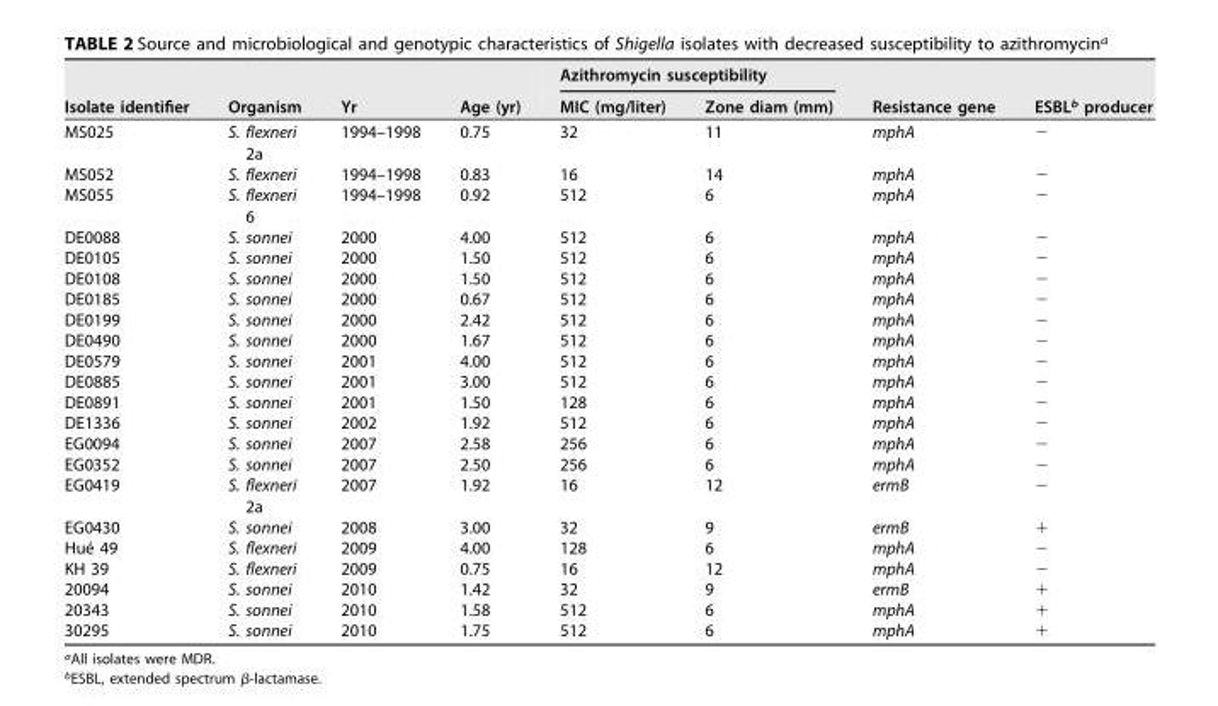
<table><thead><tr><td rowspan="2">Isolate identifier</td><td rowspan="2">Organism</td><td rowspan="2">Yr</td><td rowspan="2">Age (yr)</td><td colspan="2">Azithromycin susceptibility</td><td rowspan="2">Resistance gene</td><td rowspan="2">ESBL<sup>b</sup> producer</td></tr><tr><td>MIC (mg/liter)</td><td>Zone diam (mm)</td></tr></thead><tbody><tr><td>MS025</td><td>S. flexneri 2a</td><td>1994–1998</td><td>0.75</td><td>32</td><td>11</td><td>mphA</td><td>−</td></tr><tr><td>MS052</td><td>S. flexneri</td><td>1994–1998</td><td>0.83</td><td>16</td><td>14</td><td>mphA</td><td>−</td></tr><tr><td>MS055</td><td>S. flexneri 6</td><td>1994–1998</td><td>0.92</td><td>512</td><td>6</td><td>mphA</td><td>−</td></tr><tr><td>DE0088</td><td>S. sonnei</td><td>2000</td><td>4.00</td><td>512</td><td>6</td><td>mphA</td><td>−</td></tr><tr><td>DE0105</td><td>S. sonnei</td><td>2000</td><td>1.50</td><td>512</td><td>6</td><td>mphA</td><td>−</td></tr><tr><td>DE0108</td><td>S. sonnei</td><td>2000</td><td>1.50</td><td>512</td><td>6</td><td>mphA</td><td>−</td></tr><tr><td>DE0185</td><td>S. sonnei</td><td>2000</td><td>0.67</td><td>512</td><td>6</td><td>mphA</td><td>−</td></tr><tr><td>DE0199</td><td>S. sonnei</td><td>2000</td><td>2.42</td><td>512</td><td>6</td><td>mphA</td><td>−</td></tr><tr><td>DE0490</td><td>S. sonnei</td><td>2000</td><td>1.67</td><td>512</td><td>6</td><td>mphA</td><td>−</td></tr><tr><td>DE0579</td><td>S. sonnei</td><td>2001</td><td>4.00</td><td>512</td><td>6</td><td>mphA</td><td>−</td></tr><tr><td>DE0885</td><td>S. sonnei</td><td>2001</td><td>3.00</td><td>512</td><td>6</td><td>mphA</td><td>−</td></tr><tr><td>DE0891</td><td>S. sonnei</td><td>2001</td><td>1.50</td><td>128</td><td>6</td><td>mphA</td><td>−</td></tr><tr><td>DE1336</td><td>S. sonnei</td><td>2002</td><td>1.92</td><td>512</td><td>6</td><td>mphA</td><td>−</td></tr><tr><td>EG0094</td><td>S. sonnei</td><td>2007</td><td>2.58</td><td>256</td><td>6</td><td>mphA</td><td>−</td></tr><tr><td>EG0352</td><td>S. sonnei</td><td>2007</td><td>2.50</td><td>256</td><td>6</td><td>mphA</td><td>−</td></tr><tr><td>EG0419</td><td>S. flexneri 2a</td><td>2007</td><td>1.92</td><td>16</td><td>12</td><td>ermB</td><td>−</td></tr><tr><td>EG0430</td><td>S. sonnei</td><td>2008</td><td>3.00</td><td>32</td><td>9</td><td>ermB</td><td>+</td></tr><tr><td>Hué 49</td><td>S. flexneri</td><td>2009</td><td>4.00</td><td>128</td><td>6</td><td>mphA</td><td>−</td></tr><tr><td>KH 39</td><td>S. flexneri</td><td>2009</td><td>0.75</td><td>16</td><td>12</td><td>mphA</td><td>−</td></tr><tr><td>20094</td><td>S. sonnei</td><td>2010</td><td>1.42</td><td>32</td><td>9</td><td>ermB</td><td>+</td></tr><tr><td>20343</td><td>S. sonnei</td><td>2010</td><td>1.58</td><td>512</td><td>6</td><td>mphA</td><td>+</td></tr><tr><td>30295</td><td>S. sonnei</td><td>2010</td><td>1.75</td><td>512</td><td>6</td><td>mphA</td><td>+</td></tr></tbody></table>